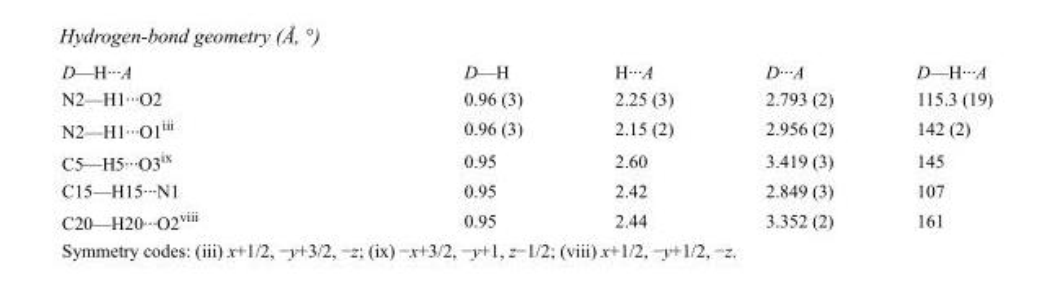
<table><tbody><tr><td>D—H···A</td><td>D—H</td><td>H···A</td><td>D···A</td><td>D—H···A</td></tr><tr><td>N2—H1···O2</td><td>0.96 (3)</td><td>2.25 (3)</td><td>2.793 (2)</td><td>115.3 (19)</td></tr><tr><td>N2—H1···O1<sup>iii</sup></td><td>0.96 (3)</td><td>2.15 (2)</td><td>2.956 (2)</td><td>142 (2)</td></tr><tr><td>C5—H5···O3<sup>ix</sup></td><td>0.95</td><td>2.60</td><td>3.419 (3)</td><td>145</td></tr><tr><td>C15—H15···N1</td><td>0.95</td><td>2.42</td><td>2.849 (3)</td><td>107</td></tr><tr><td>C20—H20···O2<sup>viii</sup></td><td>0.95</td><td>2.44</td><td>3.352 (2)</td><td>161</td></tr></tbody></table>